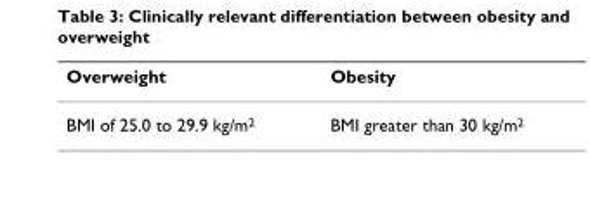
<table><thead><tr><td>Overweight</td><td>Obesity</td></tr></thead><tbody><tr><td>BMI of 25.0 to 29.9 kg/m<sup>2</sup></td><td>BMI greater than 30 kg/m<sup>2</sup></td></tr></tbody></table>